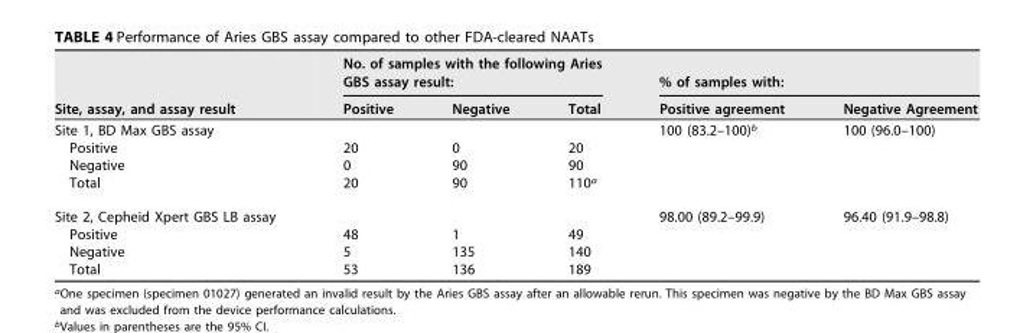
<table><thead><tr><td rowspan="2">Site, assay, and assay result</td><td colspan="3">No. of samples with the following Aries GBS assay result:</td><td colspan="2">% of samples with:</td></tr><tr><td>Positive</td><td>Negative</td><td>Total</td><td>Positive agreement</td><td>Negative Agreement</td></tr></thead><tbody><tr><td>Site 1, BD Max GBS assay</td><td></td><td></td><td></td><td>100 (83.2–100)<sup>b</sup></td><td>100 (96.0–100)</td></tr><tr><td>Positive</td><td>20</td><td>0</td><td>20</td><td></td><td></td></tr><tr><td>Negative</td><td>0</td><td>90</td><td>90</td><td></td><td></td></tr><tr><td>Total</td><td>20</td><td>90</td><td>110<sup>a</sup></td><td></td><td></td></tr><tr><td>Site 2, Cepheid Xpert GBS LB assay</td><td></td><td></td><td></td><td>98.00 (89.2–99.9)</td><td>96.40 (91.9–98.8)</td></tr><tr><td>Positive</td><td>48</td><td>1</td><td>49</td><td></td><td></td></tr><tr><td>Negative</td><td>5</td><td>135</td><td>140</td><td></td><td></td></tr><tr><td>Total</td><td>53</td><td>136</td><td>189</td><td></td><td></td></tr></tbody></table>